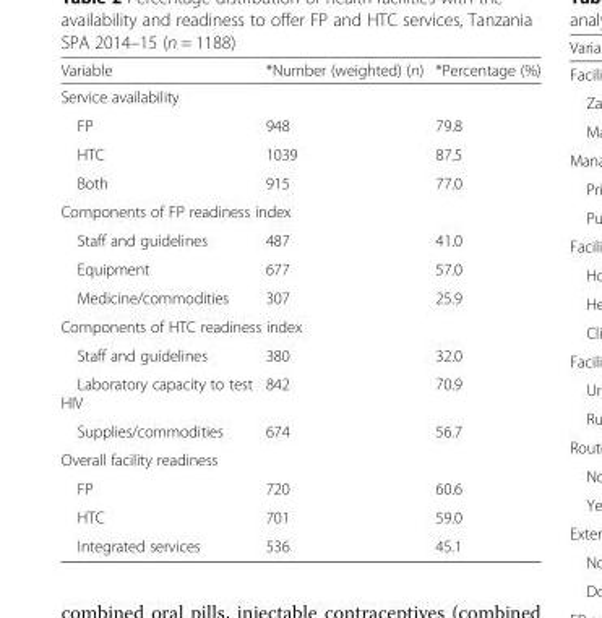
<table><thead><tr><td>Variable</td><td>*Number (weighted) (n)</td><td>*Percentage (%)</td></tr></thead><tbody><tr><td colspan="3">Service availability</td></tr><tr><td>FP</td><td>948</td><td>79.8</td></tr><tr><td>HTC</td><td>1039</td><td>87.5</td></tr><tr><td>Both</td><td>915</td><td>77.0</td></tr><tr><td colspan="3">Components of FP readiness index</td></tr><tr><td>Staff and guidelines</td><td>487</td><td>41.0</td></tr><tr><td>Equipment</td><td>677</td><td>57.0</td></tr><tr><td>Medicine/commodities</td><td>307</td><td>25.9</td></tr><tr><td colspan="3">Components of HTC readiness index</td></tr><tr><td>Staff and guidelines</td><td>380</td><td>32.0</td></tr><tr><td>Laboratory capacity to test HIV</td><td>842</td><td>70.9</td></tr><tr><td>Supplies/commodities</td><td>674</td><td>56.7</td></tr><tr><td colspan="3">Overall facility readiness</td></tr><tr><td>FP</td><td>720</td><td>60.6</td></tr><tr><td>HTC</td><td>701</td><td>59.0</td></tr><tr><td>Integrated services</td><td>536</td><td>45.1</td></tr></tbody></table>